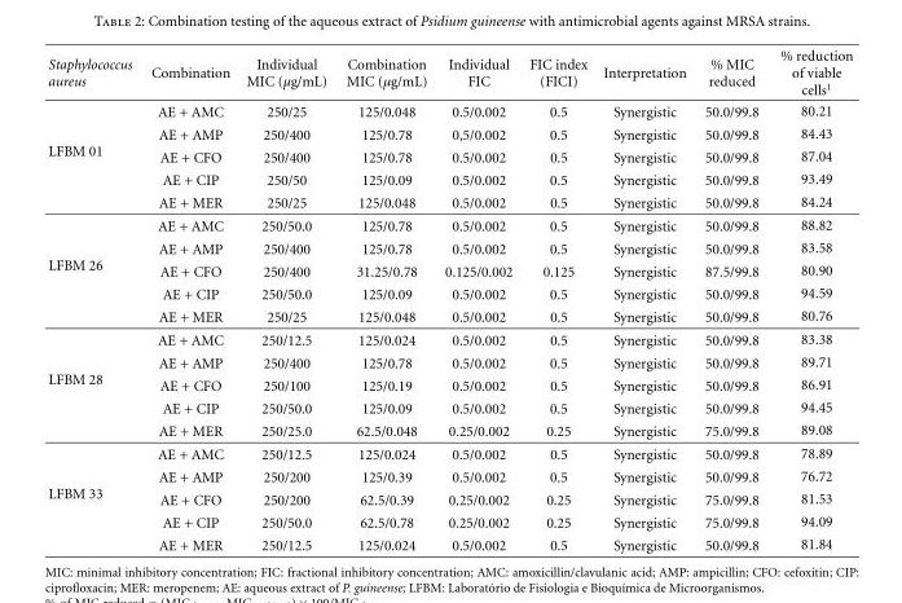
<table><thead><tr><td>Staphylococcus aureus</td><td>Combination</td><td>Individual MIC (µg/mL)</td><td>Combination MIC (µg/mL)</td><td>Individual FIC</td><td>FIC index (FICI)</td><td>Interpretation</td><td>% MIC reduced</td><td>% reduction of viable cells<sup>1</sup></td></tr></thead><tbody><tr><td rowspan="5">LFBM 01</td><td>AE + AMC</td><td>250/25</td><td>125/0.048</td><td>0.5/0.002</td><td>0.5</td><td>Synergistic</td><td>50.0/99.8</td><td>80.21</td></tr><tr><td>AE + AMP</td><td>250/400</td><td>125/0.78</td><td>0,5/0.002</td><td>0.5</td><td>Synergistic</td><td>50.0/99.8</td><td>84.43</td></tr><tr><td>AE + CFO</td><td>250/400</td><td>125/0.78</td><td>0.5/0.002</td><td>0.5</td><td>Synergistic</td><td>50.0/99.8</td><td>87.04</td></tr><tr><td>AE + CIP</td><td>250/50</td><td>125/0.09</td><td>0.5/0.002</td><td>0.5</td><td>Synergistic</td><td>50.0/99.8</td><td>93.49</td></tr><tr><td>AE + MER</td><td>250/25</td><td>125/0.048</td><td>0.5/0.002</td><td>0.5</td><td>Synergistic</td><td>50.0/99.8</td><td>84.24</td></tr><tr><td rowspan="5">LFBM 26</td><td>AE + AMC</td><td>250/50.0</td><td>125/0.78</td><td>0.5/0.002</td><td>0.5</td><td>Synergistic</td><td>50.0/99.8</td><td>88.82</td></tr><tr><td>AE + AMP</td><td>250/400</td><td>125/0.78</td><td>0.5/0.002</td><td>0.5</td><td>Synergistic</td><td>50.0/99.8</td><td>83.58</td></tr><tr><td>AE + CFO</td><td>250/400</td><td>31.25/0.78</td><td>0.125/0.002</td><td>0.125</td><td>Synergistic</td><td>87.5/99.8</td><td>80.90</td></tr><tr><td>AE + CIP</td><td>250/50.0</td><td>125/0.09</td><td>0.5/0.002</td><td>0.5</td><td>Synergistic</td><td>50.0/99.8</td><td>94.59</td></tr><tr><td>AE + MER</td><td>250/25</td><td>125/0.048</td><td>0.5/0.002</td><td>0.5</td><td>Synergistic</td><td>50.0/99.8</td><td>80.76</td></tr><tr><td rowspan="5">LFBM 28</td><td>AE + AMC</td><td>250/12.5</td><td>125/0.024</td><td>0.5/0.002</td><td>0.5</td><td>Synergistic</td><td>50.0/99.8</td><td>83.38</td></tr><tr><td>AE + AMP</td><td>250/400</td><td>125/0.78</td><td>0.5/0.002</td><td>0.5</td><td>Synergistic</td><td>50.0/99.8</td><td>89.71</td></tr><tr><td>AE + CFO</td><td>250/100</td><td>125/0.19</td><td>0.5/0.002</td><td>0.5</td><td>Synergistic</td><td>50.0/99.8</td><td>86.91</td></tr><tr><td>AE + CIP</td><td>250/50.0</td><td>125/0.09</td><td>0.5/0.002</td><td>0.5</td><td>Synergistic</td><td>50.0/99.8</td><td>94.45</td></tr><tr><td>AE + MER</td><td>250/25.0</td><td>62.5/0.048</td><td>0.25/0.002</td><td>0.25</td><td>Synergistic</td><td>75.0/99.8</td><td>89.08</td></tr><tr><td rowspan="5">LFBM 33</td><td>AE + AMC</td><td>250/12.5</td><td>125/0.024</td><td>0.5/0.002</td><td>0.5</td><td>Synergistic</td><td>50.0/99.8</td><td>78.89</td></tr><tr><td>AE + AMP</td><td>250/200</td><td>125/0.39</td><td>0.5/0.002</td><td>0.5</td><td>Synergistic</td><td>50.0/99.8</td><td>76.72</td></tr><tr><td>AE + CFO</td><td>250/200</td><td>62.5/0.39</td><td>0.25/0.002</td><td>0.25</td><td>Synergistic</td><td>75.0/99.8</td><td>81.53</td></tr><tr><td>AE + CIP</td><td>250/50.0</td><td>62.5/0.78</td><td>0.25/0.002</td><td>0.25</td><td>Synergistic</td><td>75.0/99.8</td><td>94.09</td></tr><tr><td>AE + MER</td><td>250/12.5</td><td>125/0.024</td><td>0.5/0.002</td><td>0.5</td><td>Synergistic</td><td>50.0/99.8</td><td>81.84</td></tr></tbody></table>